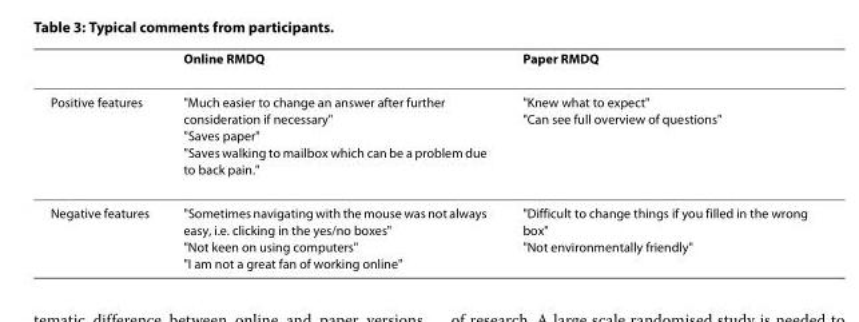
<table><thead><tr><td></td><td>Online RMDQ</td><td>Paper RMDQ</td></tr></thead><tbody><tr><td>Positive features</td><td>&quot;Much easier to change an answer after further consideration if necessary&quot; &quot;Saves paper&quot; &quot;Saves walking to mailbox which can be a problem due to back pain.&quot;</td><td>&quot;Knew what to expect&quot; &quot;Can see full overview of questions&quot;</td></tr><tr><td>Negative features</td><td>&quot;Sometimes navigating with the mouse was not always easy, i.e. clicking in the yes/no boxes&quot; &quot;Not keen on using computers&quot; &quot;I am not a great fan of working online&quot;</td><td>&quot;Difficult to change things if you filled in the wrong box&quot; &quot;Not environmentally friendly&quot;</td></tr></tbody></table>